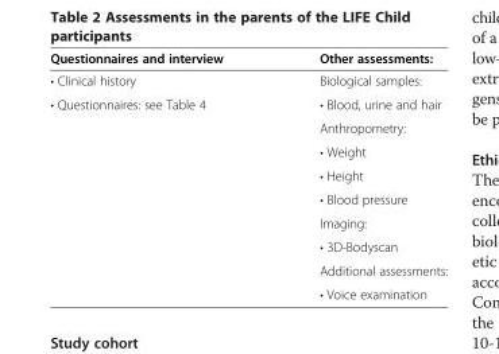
<table><thead><tr><td>Questionnaires and interview</td><td>Other assessments:</td></tr></thead><tbody><tr><td>• Clinical history</td><td>Biological samples:</td></tr><tr><td rowspan="9">• Questionnaires: see Table 4</td><td>• Blood, urine and hair</td></tr><tr><td>Anthropometry:</td></tr><tr><td>• Weight</td></tr><tr><td>• Height</td></tr><tr><td>• Blood pressure</td></tr><tr><td>Imaging:</td></tr><tr><td>• 3D-Bodyscan</td></tr><tr><td>Additional assessments:</td></tr><tr><td>• Voice examination</td></tr></tbody></table>